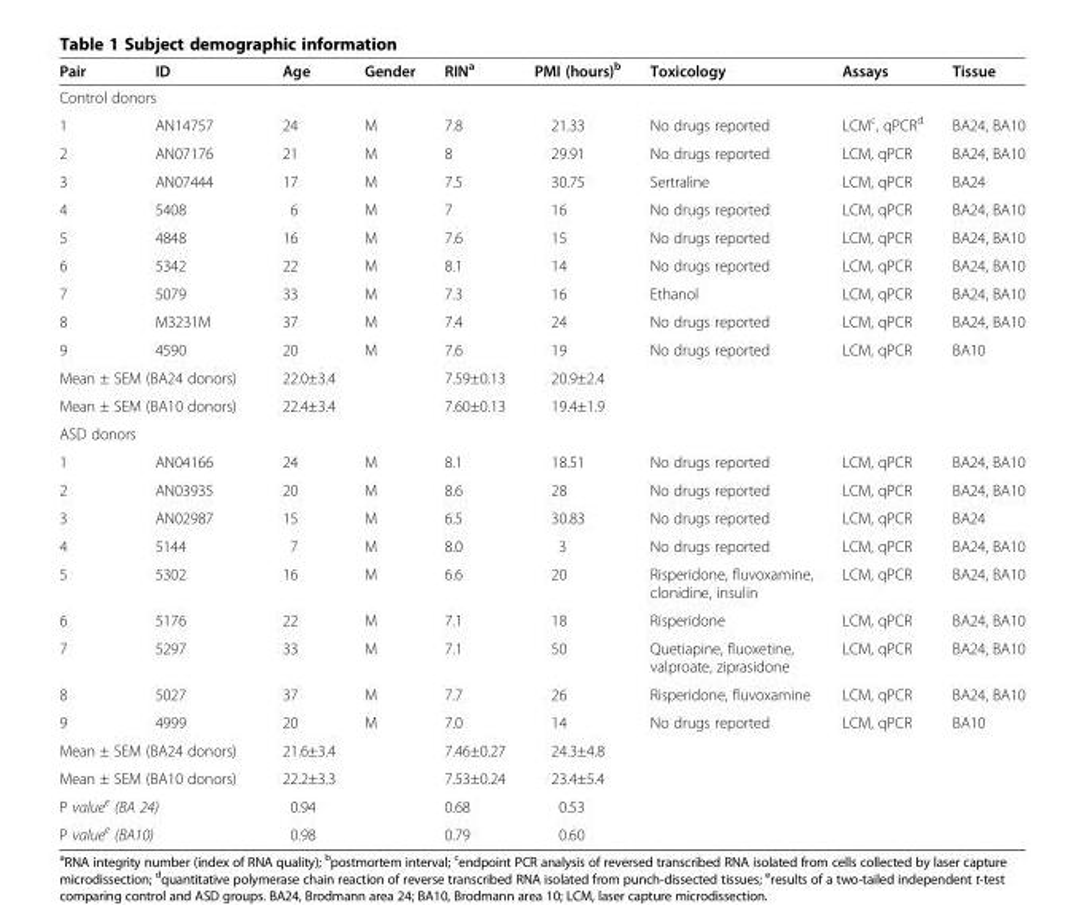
<table><thead><tr><td>Pair</td><td>ID</td><td>Age</td><td>Gender</td><td>RIN<sup>a</sup></td><td>PMI (hours)<sup>b</sup></td><td>Toxicology</td><td>Assays</td><td>Tissue</td></tr></thead><tbody><tr><td colspan="9">Control donors</td></tr><tr><td>1</td><td>AN14757</td><td>24</td><td>M</td><td>7.8</td><td>21.33</td><td>No drugs reported</td><td>LCM<sup>c</sup>, qPCR<sup>d</sup></td><td>BA24, BA10</td></tr><tr><td>2</td><td>AN07176</td><td>21</td><td>M</td><td>8</td><td>29.91</td><td>No drugs reported</td><td>LCM, qPCR</td><td>BA24, BA10</td></tr><tr><td>3</td><td>AN07444</td><td>17</td><td>M</td><td>7.5</td><td>30.75</td><td>Sertraline</td><td>LCM, qPCR</td><td>BA24</td></tr><tr><td>4</td><td>5408</td><td>6</td><td>M</td><td>7</td><td>16</td><td>No drugs reported</td><td>LCM, qPCR</td><td>BA24, BA10</td></tr><tr><td>5</td><td>4848</td><td>16</td><td>M</td><td>7.6</td><td>15</td><td>No drugs reported</td><td>LCM, qPCR</td><td>BA24, BA10</td></tr><tr><td>6</td><td>5342</td><td>22</td><td>M</td><td>8.1</td><td>14</td><td>No drugs reported</td><td>LCM, qPCR</td><td>BA24, BA10</td></tr><tr><td>7</td><td>5079</td><td>33</td><td>M</td><td>7.3</td><td>16</td><td>Ethanol</td><td>LCM, qPCR</td><td>BA24, BA10</td></tr><tr><td>8</td><td>M3231M</td><td>37</td><td>M</td><td>7.4</td><td>24</td><td>No drugs reported</td><td>LCM, qPCR</td><td>BA24, BA10</td></tr><tr><td>9</td><td>4590</td><td>20</td><td>M</td><td>7.6</td><td>19</td><td>No drugs reported</td><td>LCM, qPCR</td><td>BA10</td></tr><tr><td colspan="2">Mean ± SEM (BA24 donors)</td><td>22.0±3.4</td><td></td><td>7.59±0.13</td><td>20.9±2.4</td><td></td><td></td><td></td></tr><tr><td colspan="2">Mean ± SEM (BA10 donors)</td><td>22.4±3.4</td><td></td><td>7.60±0.13</td><td>19.4±1.9</td><td></td><td></td><td></td></tr><tr><td colspan="9">ASD donors</td></tr><tr><td>1</td><td>AN04166</td><td>24</td><td>M</td><td>8.1</td><td>18.51</td><td>No drugs reported</td><td>LCM, qPCR</td><td>BA24, BA10</td></tr><tr><td>2</td><td>AN03935</td><td>20</td><td>M</td><td>8.6</td><td>28</td><td>No drugs reported</td><td>LCM, qPCR</td><td>BA24, BA10</td></tr><tr><td>3</td><td>AN02987</td><td>15</td><td>M</td><td>6.5</td><td>30.83</td><td>No drugs reported</td><td>LCM, qPCR</td><td>BA24</td></tr><tr><td>4</td><td>5144</td><td>7</td><td>M</td><td>8.0</td><td>3</td><td>No drugs reported</td><td>LCM, qPCR</td><td>BA24, BA10</td></tr><tr><td>5</td><td>5302</td><td>16</td><td>M</td><td>6.6</td><td>20</td><td>Risperidone, fluvoxamine, clonidine, insulin</td><td>LCM, qPCR</td><td>BA24, BA10</td></tr><tr><td>6</td><td>5176</td><td>22</td><td>M</td><td>7.1</td><td>18</td><td>Risperidone</td><td>LCM, qPCR</td><td>BA24, BA10</td></tr><tr><td>7</td><td>5297</td><td>33</td><td>M</td><td>7.1</td><td>50</td><td>Quetiapine, fluoxetine, valproate, ziprasidone</td><td>LCM, qPCR</td><td>BA24, BA10</td></tr><tr><td>8</td><td>5027</td><td>37</td><td>M</td><td>7.7</td><td>26</td><td>Risperidone, fluvoxamine</td><td>LCM, qPCR</td><td>BA24, BA10</td></tr><tr><td>9</td><td>4999</td><td>20</td><td>M</td><td>7.0</td><td>14</td><td>No drugs reported</td><td>LCM, qPCR</td><td>BA10</td></tr><tr><td colspan="2">Mean ± SEM (BA24 donors)</td><td>21.6±3.4</td><td></td><td>7.46±0.27</td><td>24.3±4.8</td><td></td><td></td><td></td></tr><tr><td colspan="2">Mean ± SEM (BA10 donors)</td><td>22.2±3.3</td><td></td><td>7.53±0.24</td><td>23.4±5.4</td><td></td><td></td><td></td></tr><tr><td colspan="2">P value<sup>e</sup> (BA 24)</td><td>0.94</td><td></td><td>0.68</td><td>0.53</td><td></td><td></td><td></td></tr><tr><td colspan="2">P value<sup>e</sup> (BA10)</td><td>0.98</td><td></td><td>0.79</td><td>0.60</td><td></td><td></td><td></td></tr></tbody></table>